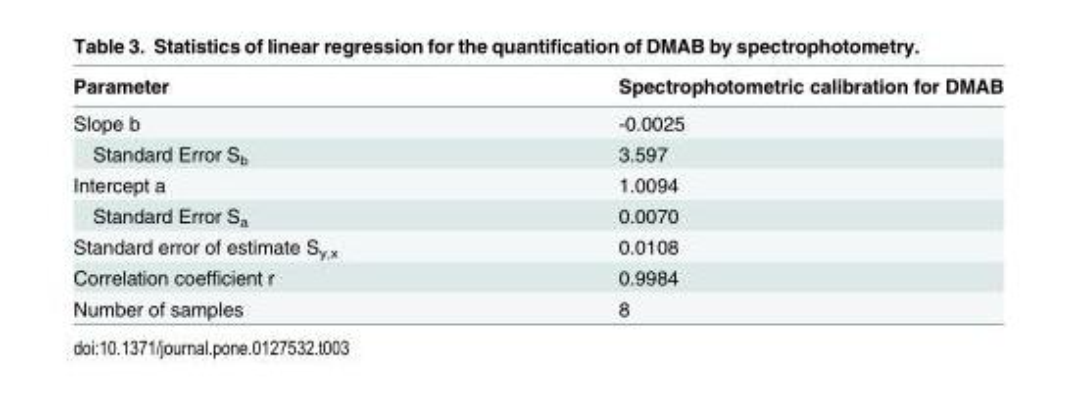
<table><thead><tr><td>Parameter</td><td>Spectrophotometric calibration for DMAB</td></tr></thead><tbody><tr><td>Slope b</td><td>-0.0025</td></tr><tr><td>Standard Error S<sub>b</sub></td><td>3.597</td></tr><tr><td>Intercept a</td><td>1.0094</td></tr><tr><td>Standard Error S<sub>a</sub></td><td>0.0070</td></tr><tr><td>Standard error of estimate S<sub>y,x</sub></td><td>0.0108</td></tr><tr><td>Correlation coefficient r</td><td>0.9984</td></tr><tr><td>Number of samples</td><td>8</td></tr></tbody></table>